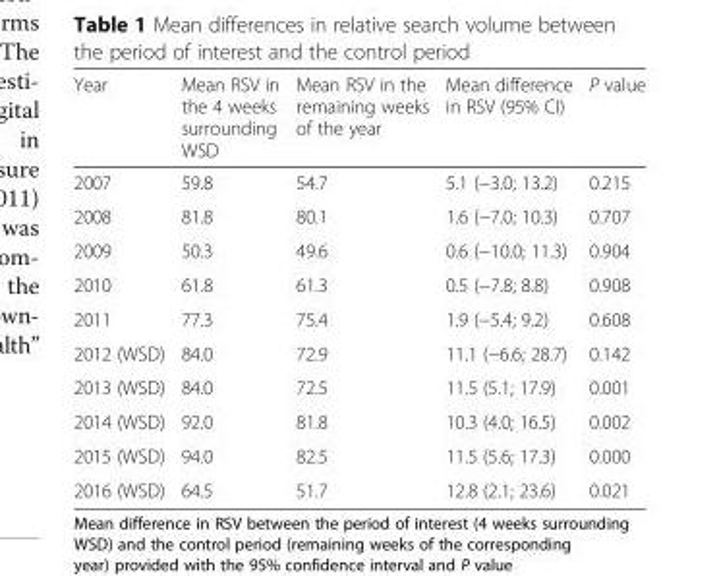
<table><thead><tr><td>Year</td><td>Mean RSV in the 4 weeks surrounding WSD</td><td>Mean RSV in the remaining weeks of the year</td><td>Mean difference in RSV (95% CI)</td><td>P value</td></tr></thead><tbody><tr><td>2007</td><td>59.8</td><td>54.7</td><td>5.1 (−3.0; 13.2)</td><td>0.215</td></tr><tr><td>2008</td><td>81.8</td><td>80.1</td><td>1.6 (−7.0; 10.3)</td><td>0.707</td></tr><tr><td>2009</td><td>50.3</td><td>49.6</td><td>0.6 (−10.0; 11.3)</td><td>0.904</td></tr><tr><td>2010</td><td>61.8</td><td>61.3</td><td>0.5 (−7.8; 8.8)</td><td>0.908</td></tr><tr><td>2011</td><td>77.3</td><td>75.4</td><td>1.9 (−5.4; 9.2)</td><td>0.608</td></tr><tr><td>2012 (WSD)</td><td>84.0</td><td>72.9</td><td>11.1 (−6.6; 28.7)</td><td>0.142</td></tr><tr><td>2013 (WSD)</td><td>84.0</td><td>72.5</td><td>11.5 (5.1; 17.9)</td><td>0.001</td></tr><tr><td>2014 (WSD)</td><td>92.0</td><td>81.8</td><td>10.3 (4.0; 16.5)</td><td>0.002</td></tr><tr><td>2015 (WSD)</td><td>94.0</td><td>82.5</td><td>11.5 (5.6; 17.3)</td><td>0.000</td></tr><tr><td>2016 (WSD)</td><td>64.5</td><td>51.7</td><td>12.8 (2.1; 23.6)</td><td>0.021</td></tr></tbody></table>